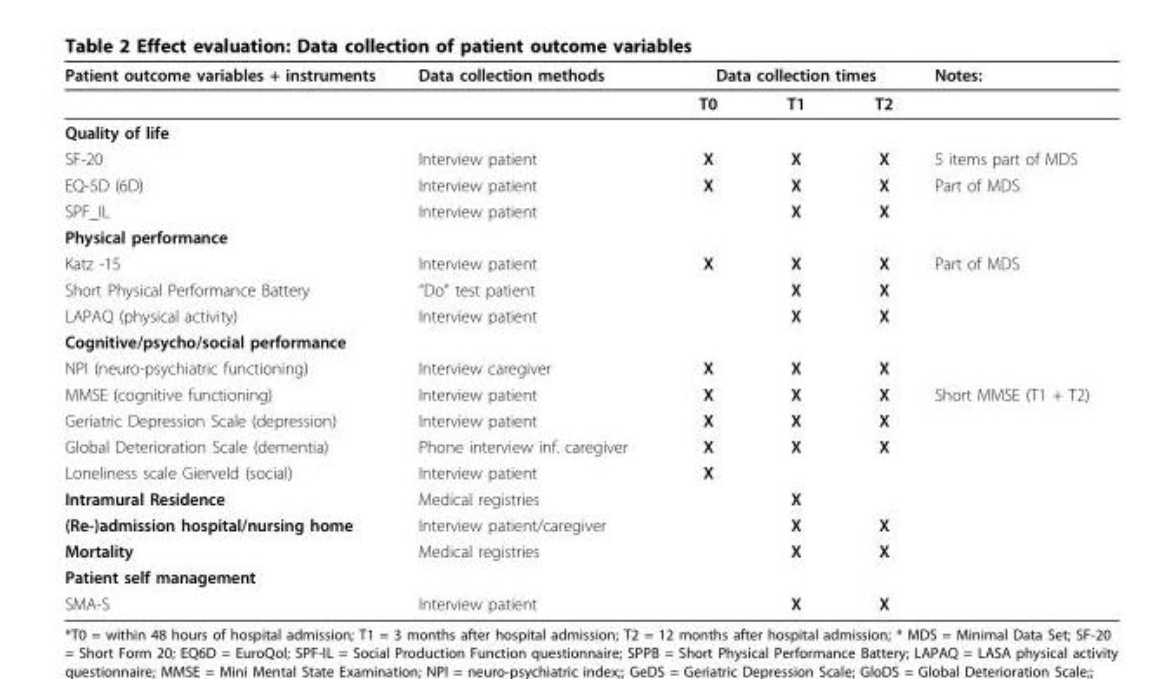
<table><thead><tr><td rowspan="2">Patient outcome variables + instruments</td><td rowspan="2">Data collection methods</td><td colspan="3">Data collection times</td><td rowspan="2">Notes:</td></tr><tr><td>T0</td><td>T1</td><td>T2</td></tr></thead><tbody><tr><td colspan="6">Quality of life</td></tr><tr><td>SF-20</td><td>Interview patient</td><td>X</td><td>X</td><td>X</td><td>5 items part of MDS</td></tr><tr><td>EQ-5D (6D)</td><td>Interview patient</td><td>X</td><td>X</td><td>X</td><td>Part of MDS</td></tr><tr><td>SPF_IL</td><td>Interview patient</td><td></td><td>X</td><td>X</td><td></td></tr><tr><td colspan="6">Physical performance</td></tr><tr><td>Katz -15</td><td>Interview patient</td><td>X</td><td>X</td><td>X</td><td>Part of MDS</td></tr><tr><td>Short Physical Performance Battery</td><td>“Do” test patient</td><td></td><td>X</td><td>X</td><td></td></tr><tr><td>LAPAQ (physical activity)</td><td>Interview patient</td><td></td><td>X</td><td>X</td><td></td></tr><tr><td colspan="6">Cognitive/psycho/social performance</td></tr><tr><td>NPI (neuro-psychiatric functioning)</td><td>Interview caregiver</td><td>X</td><td>X</td><td>X</td><td></td></tr><tr><td>MMSE (cognitive functioning)</td><td>Interview patient</td><td>X</td><td>X</td><td>X</td><td>Short MMSE (T1 + T2)</td></tr><tr><td>Geriatric Depression Scale (depression)</td><td>Interview patient</td><td>X</td><td>X</td><td>X</td><td></td></tr><tr><td>Global Deterioration Scale (dementia)</td><td>Phone interview inf. caregiver</td><td>X</td><td>X</td><td>X</td><td></td></tr><tr><td>Loneliness scale Gierveld (social)</td><td>Interview patient</td><td>X</td><td></td><td></td><td></td></tr><tr><td>Intramural Residence</td><td>Medical registries</td><td></td><td>X</td><td></td><td></td></tr><tr><td>(Re-)admission hospital/nursing home</td><td>Interview patient/caregiver</td><td></td><td>X</td><td>X</td><td></td></tr><tr><td>Mortality</td><td>Medical registries</td><td></td><td>X</td><td>X</td><td></td></tr><tr><td colspan="6">Patient self management</td></tr><tr><td>SMA-S</td><td>Interview patient</td><td></td><td>X</td><td>X</td><td></td></tr></tbody></table>